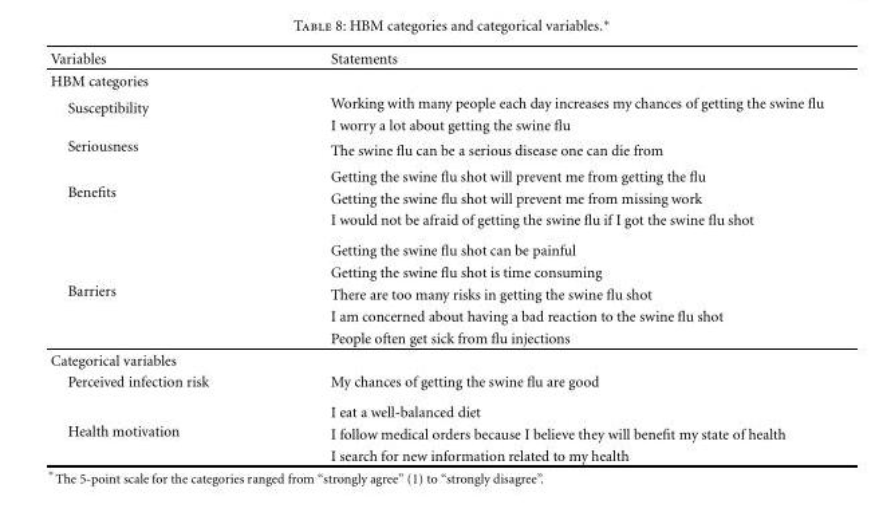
<table><thead><tr><td>Variables</td><td>Statements</td></tr></thead><tbody><tr><td colspan="2">HBM categories</td></tr><tr><td rowspan="2">Susceptibility</td><td>Working with many people each day increases my chances of getting the swine flu</td></tr><tr><td>I worry a lot about getting the swine flu</td></tr><tr><td>Seriousness</td><td>The swine flu can be a serious disease one can die from</td></tr><tr><td rowspan="3">Benefits</td><td>Getting the swine flu shot will prevent me from getting the flu</td></tr><tr><td>Getting the swine flu shot will prevent me from missing work</td></tr><tr><td>I would not be afraid of getting the swine flu if I got the swine flu shot</td></tr><tr><td rowspan="5">Barriers</td><td>Getting the swine flu shot can be painful</td></tr><tr><td>Getting the swine flu shot is time consuming</td></tr><tr><td>There are too many risks in getting the swine flu shot</td></tr><tr><td>I am concerned about having a bad reaction to the swine flu shot</td></tr><tr><td>People often get sick from flu injections</td></tr><tr><td colspan="2">Categorical variables</td></tr><tr><td>Perceived infection risk</td><td>My chances of getting the swine flu are good</td></tr><tr><td rowspan="3">Health motivation</td><td>I eat a well-balanced diet</td></tr><tr><td>I follow medical orders because I believe they will benefit my state of health</td></tr><tr><td>I search for new information related to my health</td></tr></tbody></table>